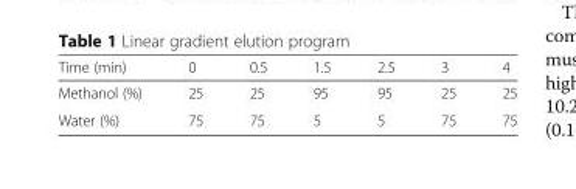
<table><thead><tr><td>Time (min)</td><td>0</td><td>0.5</td><td>1.5</td><td>2.5</td><td>3</td><td>4</td></tr></thead><tbody><tr><td>Methanol (%)</td><td>25</td><td>25</td><td>95</td><td>95</td><td>25</td><td>25</td></tr><tr><td>Water (%)</td><td>75</td><td>75</td><td>5</td><td>5</td><td>75</td><td>75</td></tr></tbody></table>